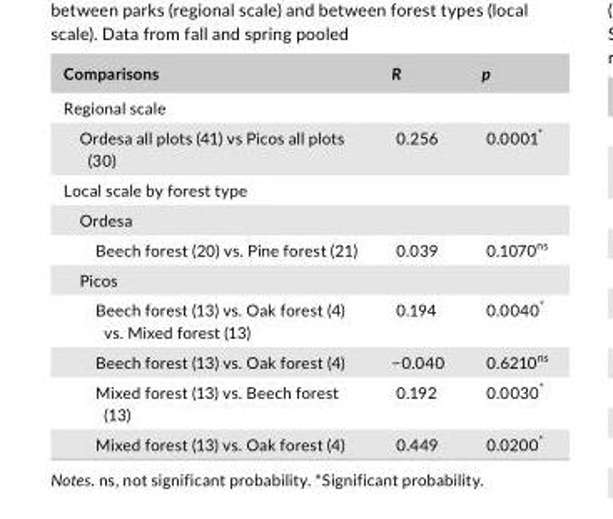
<table><thead><tr><td>Comparisons</td><td>R</td><td>p</td></tr></thead><tbody><tr><td colspan="3">Regional scale</td></tr><tr><td>Ordesa all plots (41) vs Picos all plots (30)</td><td>0.256</td><td>0.0001*</td></tr><tr><td colspan="3">Local scale by forest type</td></tr><tr><td colspan="3">Ordesa</td></tr><tr><td>Beech forest (20) vs. Pine forest (21)</td><td>0.039</td><td>0.1070<sup>ns</sup></td></tr><tr><td colspan="3">Picos</td></tr><tr><td>Beech forest (13) vs. Oak forest (4) vs. Mixed forest (13)</td><td>0.194</td><td>0.0040*</td></tr><tr><td>Beech forest (13) vs. Oak forest (4)</td><td>−0.040</td><td>0.6210<sup>ns</sup></td></tr><tr><td>Mixed forest (13) vs. Beech forest (13)</td><td>0.192</td><td>0.0030*</td></tr><tr><td>Mixed forest (13) vs. Oak forest (4)</td><td>0.449</td><td>0.0200*</td></tr></tbody></table>